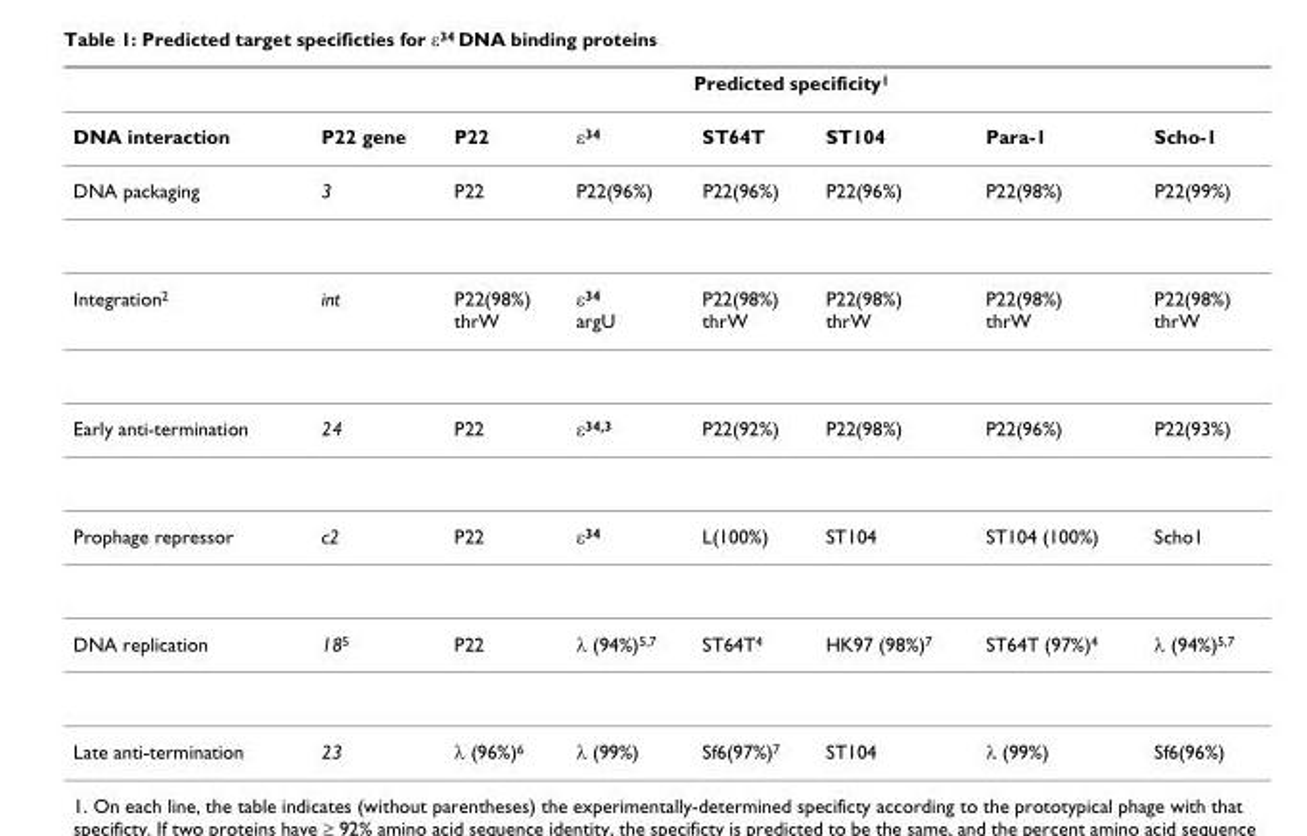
<table><thead><tr><td rowspan="2">DNA interaction</td><td colspan="7">Predicted specificity1</td></tr><tr><td>P22 gene</td><td>P22</td><td>ε34</td><td>ST64T</td><td>ST104</td><td>Para-1</td><td>Scho-1</td></tr></thead><tbody><tr><td>DNA packaging</td><td>3</td><td>P22</td><td>P22(96%)</td><td>P22(96%)</td><td>P22(96%)</td><td>P22(98%)</td><td>P22(99%)</td></tr><tr><td>Integration2</td><td>int</td><td>P22(98%) thrW</td><td>ε34 argU</td><td>P22(98%) thrW</td><td>P22(98%) thrW</td><td>P22(98%) thrW</td><td>P22(98%) thrW</td></tr><tr><td>Early anti-termination</td><td>24</td><td>P22</td><td>ε34,3</td><td>P22(92%)</td><td>P22(98%)</td><td>P22(96%)</td><td>P22(93%)</td></tr><tr><td>Prophage repressor</td><td>c2</td><td>P22</td><td>ε34</td><td>L(100%)</td><td>ST104</td><td>ST104 (100%)</td><td>Scho1</td></tr><tr><td>DNA replication</td><td>185</td><td>P22</td><td>λ (94%)5,7</td><td>ST64T4</td><td>HK97 (98%)7</td><td>ST64T (97%)4</td><td>λ (94%)5,7</td></tr><tr><td>Late anti-termination</td><td>23</td><td>λ (96%)6</td><td>λ (99%)</td><td>Sf6(97%)7</td><td>ST104</td><td>λ (99%)</td><td>Sf6(96%)</td></tr></tbody></table>